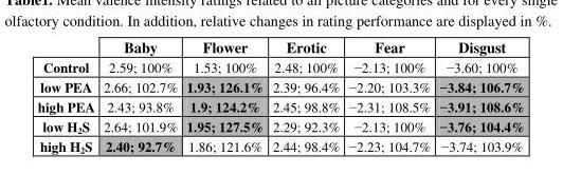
<table><thead><tr><td></td><td>Baby</td><td>Flower</td><td>Erotic</td><td>Fear</td><td>Disgust</td></tr></thead><tbody><tr><td>Control</td><td>2.59; 100%</td><td>1.53; 100%</td><td>2.48; 100%</td><td>−2.13; 100%</td><td>−3.60; 100%</td></tr><tr><td>low PEA</td><td>2.66; 102.7%</td><td>1.93; 126.1%</td><td>2.39; 96.4%</td><td>−2.20; 103.3%</td><td>−3.84; 106.7%</td></tr><tr><td>high PEA</td><td>2.43; 93.8%</td><td>1.9; 124.2%</td><td>2.45; 98.8%</td><td>−2.31; 108.5%</td><td>−3.91; 108.6%</td></tr><tr><td>low H<sub>2</sub>S</td><td>2.64; 101.9%</td><td>1.95; 127.5%</td><td>2.29; 92.3%</td><td>−2.13; 100%</td><td>−3.76; 104.4%</td></tr><tr><td>high H<sub>2</sub>S</td><td>2.40; 92.7%</td><td>1.86; 121.6%</td><td>2.44; 98.4%</td><td>−2.23; 104.7%</td><td>−3.74; 103.9%</td></tr></tbody></table>